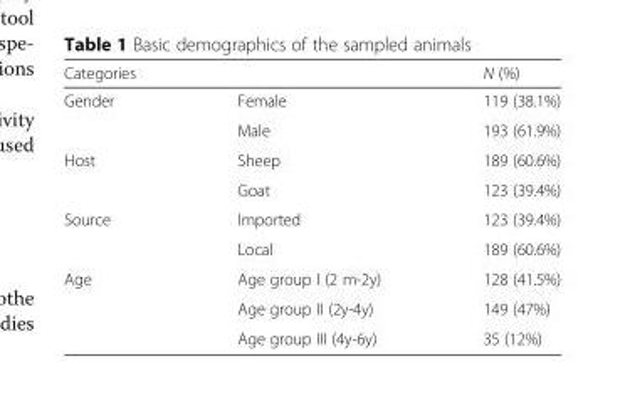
<table><thead><tr><td>Categories</td><td></td><td>N (%)</td></tr></thead><tbody><tr><td rowspan="2">Gender</td><td>Female</td><td>119 (38.1%)</td></tr><tr><td>Male</td><td>193 (61.9%)</td></tr><tr><td rowspan="2">Host</td><td>Sheep</td><td>189 (60.6%)</td></tr><tr><td>Goat</td><td>123 (39.4%)</td></tr><tr><td rowspan="2">Source</td><td>Imported</td><td>123 (39.4%)</td></tr><tr><td>Local</td><td>189 (60.6%)</td></tr><tr><td rowspan="3">Age</td><td>Age group I (2 m-2y)</td><td>128 (41.5%)</td></tr><tr><td>Age group II (2y-4y)</td><td>149 (47%)</td></tr><tr><td>Age group III (4y-6y)</td><td>35 (12%)</td></tr></tbody></table>